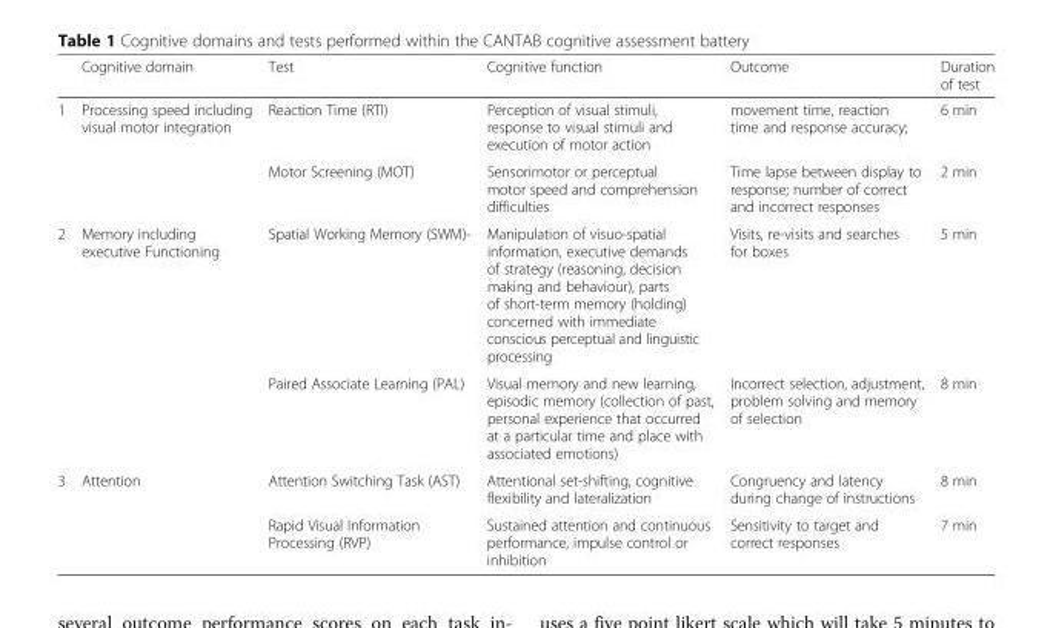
<table><thead><tr><td></td><td>Cognitive domain</td><td>Test</td><td>Cognitive function</td><td>Outcome</td><td>Duration of test</td></tr></thead><tbody><tr><td rowspan="2">1</td><td rowspan="2">Processing speed including visual motor integration</td><td>Reaction Time (RTI)</td><td>Perception of visual stimuli, response to visual stimuli and execution of motor action</td><td>movement time, reaction time and response accuracy;</td><td>6 min</td></tr><tr><td>Motor Screening (MOT)</td><td>Sensorimotor or perceptual motor speed and comprehension difficulties</td><td>Time lapse between display to response; number of correct and incorrect responses</td><td>2 min</td></tr><tr><td rowspan="2">2</td><td rowspan="2">Memory including executive Functioning</td><td>Spatial Working Memory (SWM)-</td><td>Manipulation of visuo-spatial information, executive demands of strategy (reasoning, decision making and behaviour), parts of short-term memory (holding) concerned with immediate conscious perceptual and linguistic processing</td><td>Visits, re-visits and searches for boxes</td><td>5 min</td></tr><tr><td>Paired Associate Learning (PAL)</td><td>Visual memory and new learning, episodic memory (collection of past, personal experience that occurred at a particular time and place with associated emotions)</td><td>Incorrect selection, adjustment, problem solving and memory of selection</td><td>8 min</td></tr><tr><td rowspan="2">3</td><td rowspan="2">Attention</td><td>Attention Switching Task (AST)</td><td>Attentional set-shifting, cognitive flexibility and lateralization</td><td>Congruency and latency during change of instructions</td><td>8 min</td></tr><tr><td>Rapid Visual Information Processing (RVP)</td><td>Sustained attention and continuous performance, impulse control or inhibition</td><td>Sensitivity to target and correct responses</td><td>7 min</td></tr></tbody></table>